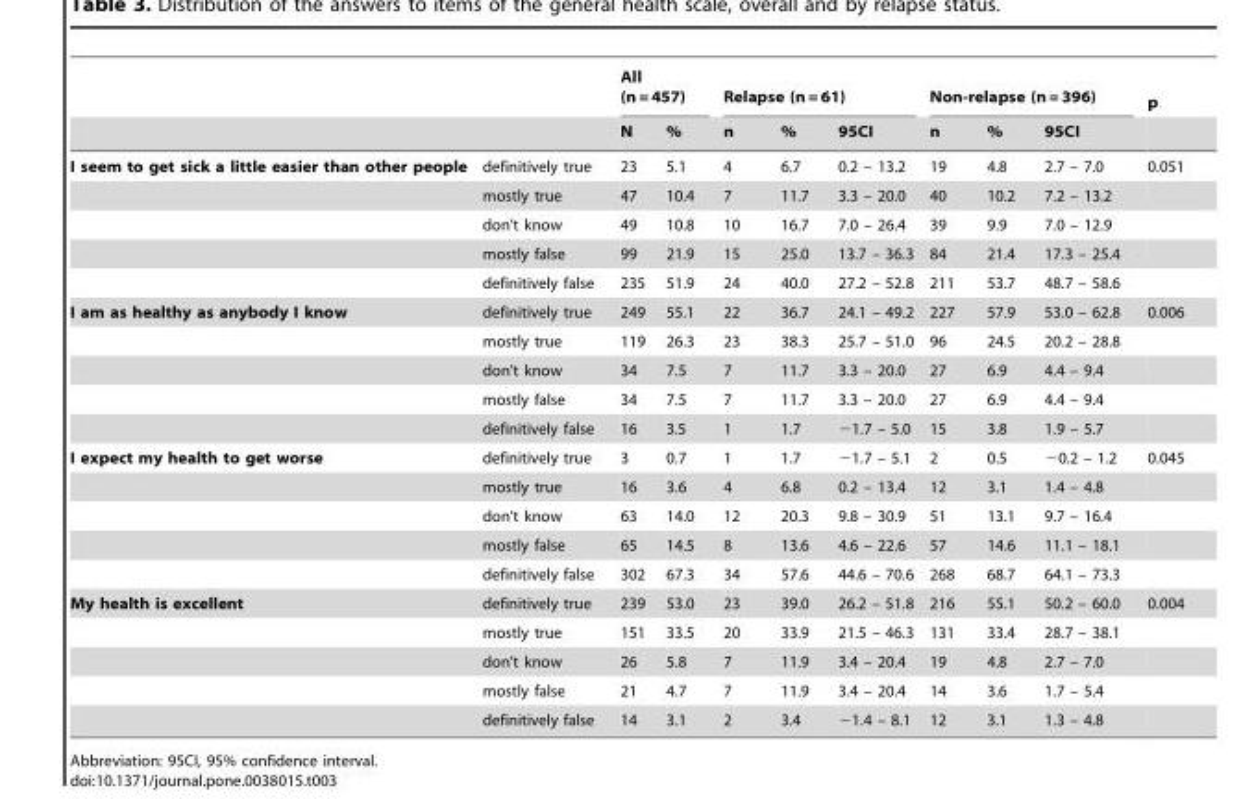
<table><thead><tr><td rowspan="2"></td><td rowspan="2"></td><td colspan="2">All (n = 457)</td><td colspan="3">Relapse (n = 61)</td><td colspan="3">Non-relapse (n = 396)</td><td rowspan="2">p</td></tr><tr><td>N</td><td>%</td><td>n</td><td>%</td><td>95CI</td><td>n</td><td>%</td><td>95CI</td></tr></thead><tbody><tr><td rowspan="5">I seem to get sick a little easier than other people</td><td>definitively true</td><td>23</td><td>5.1</td><td>4</td><td>6.7</td><td>0.2 – 13.2</td><td>19</td><td>4.8</td><td>2.7 – 7.0</td><td>0.051</td></tr><tr><td>mostly true</td><td>47</td><td>10.4</td><td>7</td><td>11.7</td><td>3.3 – 20.0</td><td>40</td><td>10.2</td><td>7.2 – 13.2</td><td></td></tr><tr><td>don’t know</td><td>49</td><td>10.8</td><td>10</td><td>16.7</td><td>7.0 – 26.4</td><td>39</td><td>9.9</td><td>7.0 – 12.9</td><td></td></tr><tr><td>mostly false</td><td>99</td><td>21.9</td><td>15</td><td>25.0</td><td>13.7 – 36.3</td><td>84</td><td>21.4</td><td>17.3 – 25.4</td><td></td></tr><tr><td>definitively false</td><td>235</td><td>51.9</td><td>24</td><td>40.0</td><td>27.2 – 52.8</td><td>211</td><td>53.7</td><td>48.7 – 58.6</td><td></td></tr><tr><td rowspan="5">I am as healthy as anybody I know</td><td>definitively true</td><td>249</td><td>55.1</td><td>22</td><td>36.7</td><td>24.1 – 49.2</td><td>227</td><td>57.9</td><td>53.0 – 62.8</td><td>0.006</td></tr><tr><td>mostly true</td><td>119</td><td>26.3</td><td>23</td><td>38.3</td><td>25.7 – 51.0</td><td>96</td><td>24.5</td><td>20.2 – 28.8</td><td></td></tr><tr><td>don’t know</td><td>34</td><td>7.5</td><td>7</td><td>11.7</td><td>3.3 – 20.0</td><td>27</td><td>6.9</td><td>4.4 – 9.4</td><td></td></tr><tr><td>mostly false</td><td>34</td><td>7.5</td><td>7</td><td>11.7</td><td>3.3 – 20.0</td><td>27</td><td>6.9</td><td>4.4 – 9.4</td><td></td></tr><tr><td>definitively false</td><td>16</td><td>3.5</td><td>1</td><td>1.7</td><td>−1.7 – 5.0</td><td>15</td><td>3.8</td><td>1.9 – 5.7</td><td></td></tr><tr><td rowspan="5">I expect my health to get worse</td><td>definitively true</td><td>3</td><td>0.7</td><td>1</td><td>1.7</td><td>−1.7 – 5.1</td><td>2</td><td>0.5</td><td>−0.2 – 1.2</td><td>0.045</td></tr><tr><td>mostly true</td><td>16</td><td>3.6</td><td>4</td><td>6.8</td><td>0.2 – 13.4</td><td>12</td><td>3.1</td><td>1.4 – 4.8</td><td></td></tr><tr><td>don’t know</td><td>63</td><td>14.0</td><td>12</td><td>20.3</td><td>9.8 – 30.9</td><td>51</td><td>13.1</td><td>9.7 – 16.4</td><td></td></tr><tr><td>mostly false</td><td>65</td><td>14.5</td><td>8</td><td>13.6</td><td>4.6 – 22.6</td><td>57</td><td>14.6</td><td>11.1 – 18.1</td><td></td></tr><tr><td>definitively false</td><td>302</td><td>67.3</td><td>34</td><td>57.6</td><td>44.6 – 70.6</td><td>268</td><td>68.7</td><td>64.1 – 73.3</td><td></td></tr><tr><td rowspan="5">My health is excellent</td><td>definitively true</td><td>239</td><td>53.0</td><td>23</td><td>39.0</td><td>26.2 – 51.8</td><td>216</td><td>55.1</td><td>50.2 – 60.0</td><td>0.004</td></tr><tr><td>mostly true</td><td>151</td><td>33.5</td><td>20</td><td>33.9</td><td>21.5 – 46.3</td><td>131</td><td>33.4</td><td>28.7 – 38.1</td><td></td></tr><tr><td>don’t know</td><td>26</td><td>5.8</td><td>7</td><td>11.9</td><td>3.4 – 20.4</td><td>19</td><td>4.8</td><td>2.7 – 7.0</td><td></td></tr><tr><td>mostly false</td><td>21</td><td>4.7</td><td>7</td><td>11.9</td><td>3.4 – 20.4</td><td>14</td><td>3.6</td><td>1.7 – 5.4</td><td></td></tr><tr><td>definitively false</td><td>14</td><td>3.1</td><td>2</td><td>3.4</td><td>−1.4 – 8.1</td><td>12</td><td>3.1</td><td>1.3 – 4.8</td><td></td></tr></tbody></table>